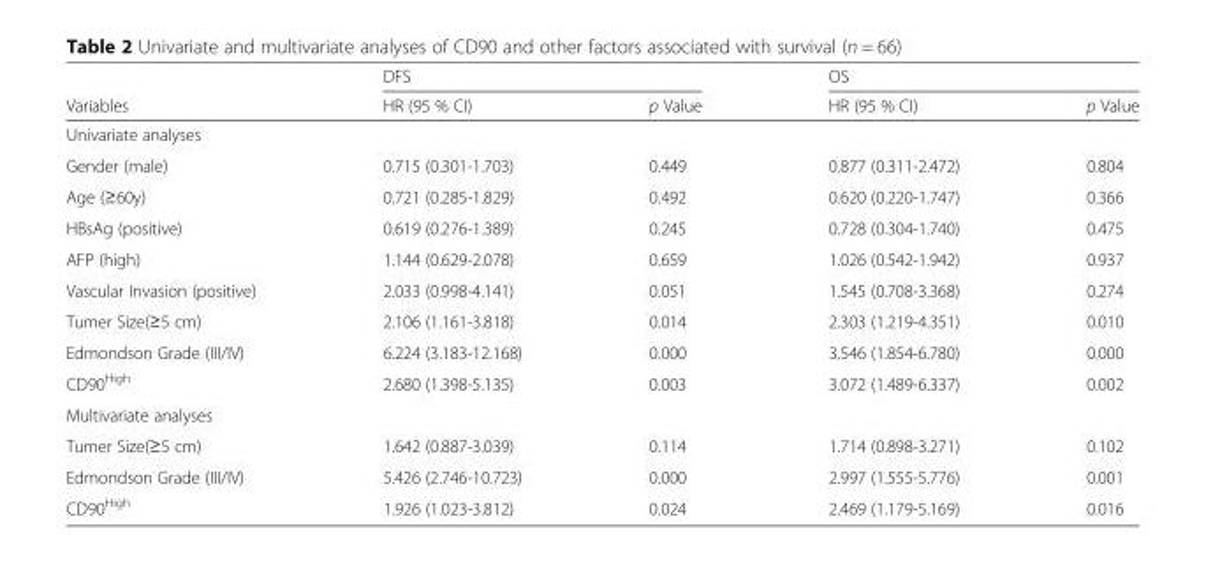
<table><thead><tr><td rowspan="2">Variables</td><td colspan="2">DFS</td><td colspan="2">OS</td></tr><tr><td>HR (95 % CI)</td><td>p Value</td><td>HR (95 % CI)</td><td>p Value</td></tr></thead><tbody><tr><td colspan="5">Univariate analyses</td></tr><tr><td>Gender (male)</td><td>0.715 (0.301-1.703)</td><td>0.449</td><td>0.877 (0.311-2.472)</td><td>0.804</td></tr><tr><td>Age (≥60y)</td><td>0.721 (0.285-1.829)</td><td>0.492</td><td>0.620 (0.220-1.747)</td><td>0.366</td></tr><tr><td>HBsAg (positive)</td><td>0.619 (0.276-1.389)</td><td>0.245</td><td>0.728 (0.304-1.740)</td><td>0.475</td></tr><tr><td>AFP (high)</td><td>1.144 (0.629-2.078)</td><td>0.659</td><td>1.026 (0.542-1.942)</td><td>0.937</td></tr><tr><td>Vascular Invasion (positive)</td><td>2.033 (0.998-4.141)</td><td>0.051</td><td>1.545 (0.708-3.368)</td><td>0.274</td></tr><tr><td>Tumer Size(≥5 cm)</td><td>2.106 (1.161-3.818)</td><td>0.014</td><td>2.303 (1.219-4.351)</td><td>0.010</td></tr><tr><td>Edmondson Grade (III/IV)</td><td>6.224 (3.183-12.168)</td><td>0.000</td><td>3.546 (1.854-6.780)</td><td>0.000</td></tr><tr><td>CD90<sup>High</sup></td><td>2.680 (1.398-5.135)</td><td>0.003</td><td>3.072 (1.489-6.337)</td><td>0.002</td></tr><tr><td colspan="5">Multivariate analyses</td></tr><tr><td>Tumer Size(≥5 cm)</td><td>1.642 (0.887-3.039)</td><td>0.114</td><td>1.714 (0.898-3.271)</td><td>0.102</td></tr><tr><td>Edmondson Grade (III/IV)</td><td>5.426 (2.746-10.723)</td><td>0.000</td><td>2.997 (1.555-5.776)</td><td>0.001</td></tr><tr><td>CD90<sup>High</sup></td><td>1.926 (1.023-3.812)</td><td>0.024</td><td>2.469 (1.179-5.169)</td><td>0.016</td></tr></tbody></table>